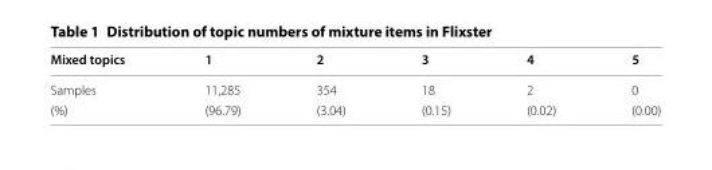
<table><thead><tr><td>Mixed topics</td><td>1</td><td>2</td><td>3</td><td>4</td><td>5</td></tr></thead><tbody><tr><td>Samples</td><td>11,285</td><td>354</td><td>18</td><td>2</td><td>0</td></tr><tr><td>(%)</td><td>(96.79)</td><td>(3.04)</td><td>(0.15)</td><td>(0.02)</td><td>(0.00)</td></tr></tbody></table>